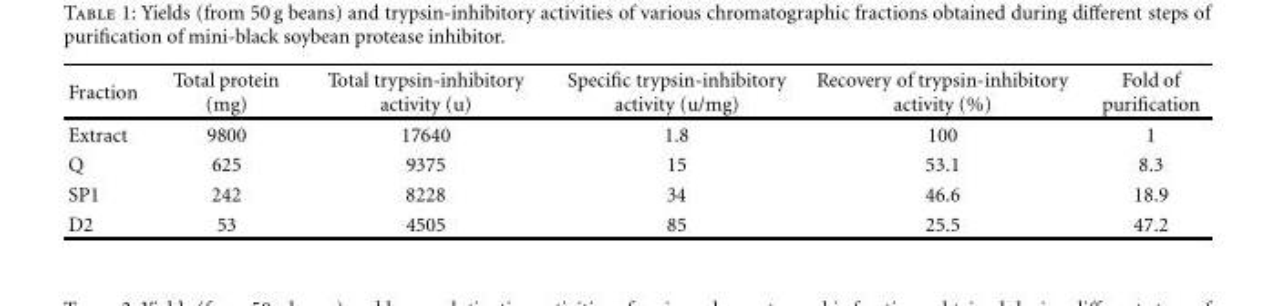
<table><thead><tr><td>Fraction</td><td>Total protein (mg)</td><td>Total trypsin-inhibitory activity (u)</td><td>Specific trypsin-inhibitory activity (u/mg)</td><td>Recovery of trypsin-inhibitory activity (%)</td><td>Fold of purification</td></tr></thead><tbody><tr><td>Extract</td><td>9800</td><td>17640</td><td>1.8</td><td>100</td><td>1</td></tr><tr><td>Q</td><td>625</td><td>9375</td><td>15</td><td>53.1</td><td>8.3</td></tr><tr><td>SP1</td><td>242</td><td>8228</td><td>34</td><td>46.6</td><td>18.9</td></tr><tr><td>D2</td><td>53</td><td>4505</td><td>85</td><td>25.5</td><td>47.2</td></tr></tbody></table>